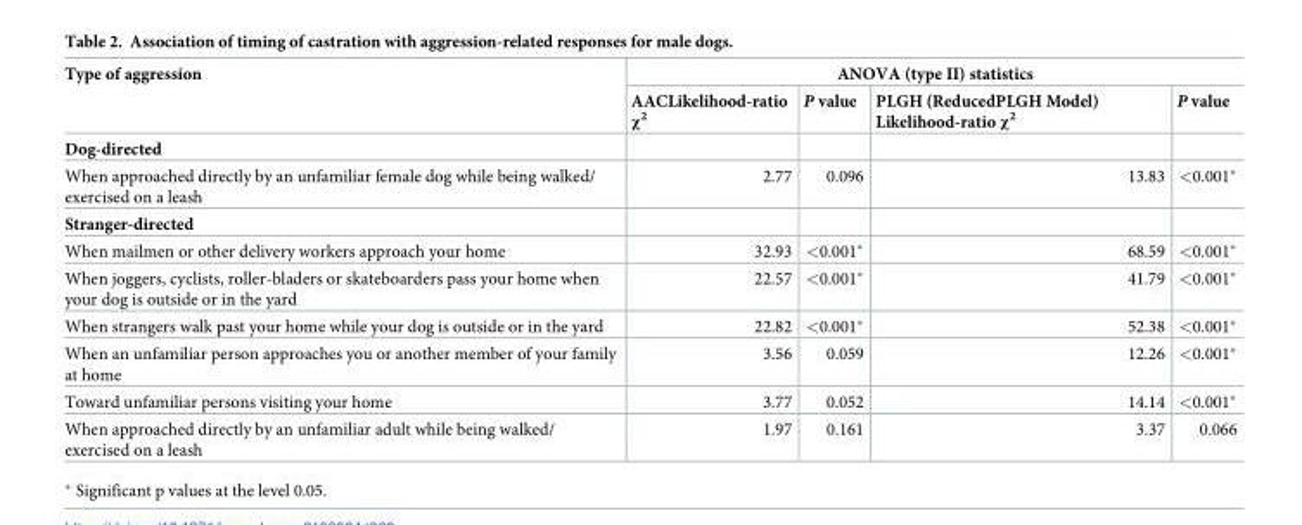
<table><thead><tr><td rowspan="2">Type of aggression</td><td colspan="4">ANOVA (type II) statistics</td></tr><tr><td>AACLikelihood-ratio χ<sup>2</sup></td><td>P value</td><td>PLGH (ReducedPLGH Model) Likelihood-ratio χ<sup>2</sup></td><td>P value</td></tr></thead><tbody><tr><td colspan="5">Dog-directed</td></tr><tr><td>When approached directly by an unfamiliar female dog while being walked/ exercised on a leash</td><td>2.77</td><td>0.096</td><td>13.83</td><td>&lt;0.001*</td></tr><tr><td colspan="5">Stranger-directed</td></tr><tr><td>When mailmen or other delivery workers approach your home</td><td>32.93</td><td>&lt;0.001*</td><td>68.59</td><td>&lt;0.001*</td></tr><tr><td>When joggers, cyclists, roller-bladers or skateboarders pass your home when your dog is outside or in the yard</td><td>22.57</td><td>&lt;0.001*</td><td>41.79</td><td>&lt;0.001*</td></tr><tr><td>When strangers walk past your home while your dog is outside or in the yard</td><td>22.82</td><td>&lt;0.001*</td><td>52.38</td><td>&lt;0.001*</td></tr><tr><td>When an unfamiliar person approaches you or another member of your family at home</td><td>3.56</td><td>0.059</td><td>12.26</td><td>&lt;0.001*</td></tr><tr><td>Toward unfamiliar persons visiting your home</td><td>3.77</td><td>0.052</td><td>14.14</td><td>&lt;0.001*</td></tr><tr><td>When approached directly by an unfamiliar adult while being walked/ exercised on a leash</td><td>1.97</td><td>0.161</td><td>3.37</td><td>0.066</td></tr></tbody></table>